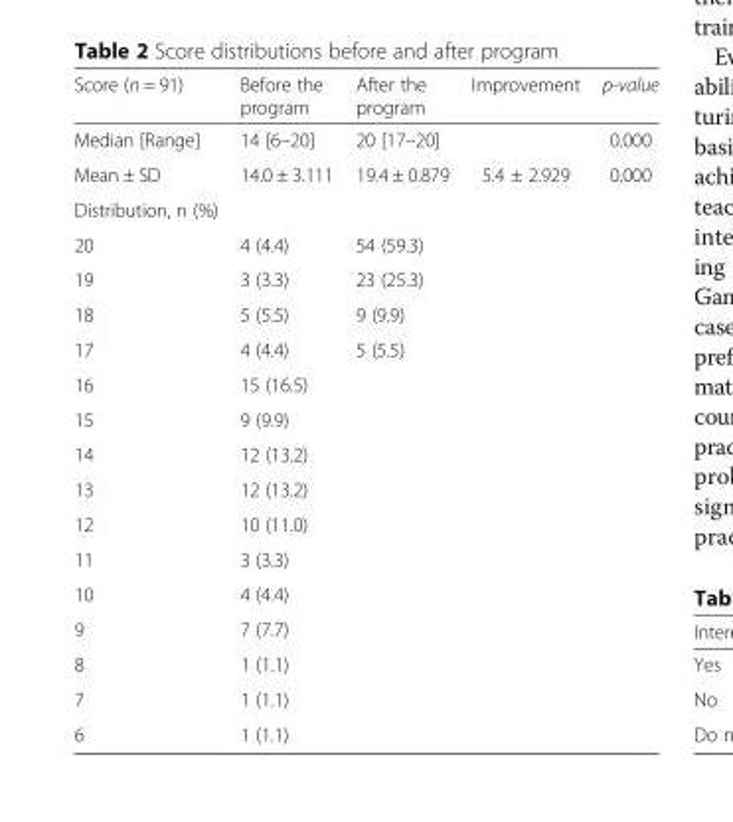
<table><thead><tr><td>Score (n = 91)</td><td>Before the program</td><td>After the program</td><td>Improvement</td><td>p-value</td></tr></thead><tbody><tr><td>Median [Range]</td><td>14 [6–20]</td><td>20 [17–20]</td><td></td><td>0.000</td></tr><tr><td>Mean ± SD</td><td>14.0 ± 3.111</td><td>19.4 ± 0.879</td><td>5.4 ± 2.929</td><td>0.000</td></tr><tr><td colspan="5">Distribution, n (%)</td></tr><tr><td>20</td><td>4 (4.4)</td><td>54 (59.3)</td><td></td><td></td></tr><tr><td>19</td><td>3 (3.3)</td><td>23 (25.3)</td><td></td><td></td></tr><tr><td>18</td><td>5 (5.5)</td><td>9 (9.9)</td><td></td><td></td></tr><tr><td>17</td><td>4 (4.4)</td><td>5 (5.5)</td><td></td><td></td></tr><tr><td>16</td><td>15 (16.5)</td><td></td><td></td><td></td></tr><tr><td>15</td><td>9 (9.9)</td><td></td><td></td><td></td></tr><tr><td>14</td><td>12 (13.2)</td><td></td><td></td><td></td></tr><tr><td>13</td><td>12 (13.2)</td><td></td><td></td><td></td></tr><tr><td>12</td><td>10 (11.0)</td><td></td><td></td><td></td></tr><tr><td>11</td><td>3 (3.3)</td><td></td><td></td><td></td></tr><tr><td>10</td><td>4 (4.4)</td><td></td><td></td><td></td></tr><tr><td>9</td><td>7 (7.7)</td><td></td><td></td><td></td></tr><tr><td>8</td><td>1 (1.1)</td><td></td><td></td><td></td></tr><tr><td>7</td><td>1 (1.1)</td><td></td><td></td><td></td></tr><tr><td>6</td><td>1 (1.1)</td><td></td><td></td><td></td></tr></tbody></table>